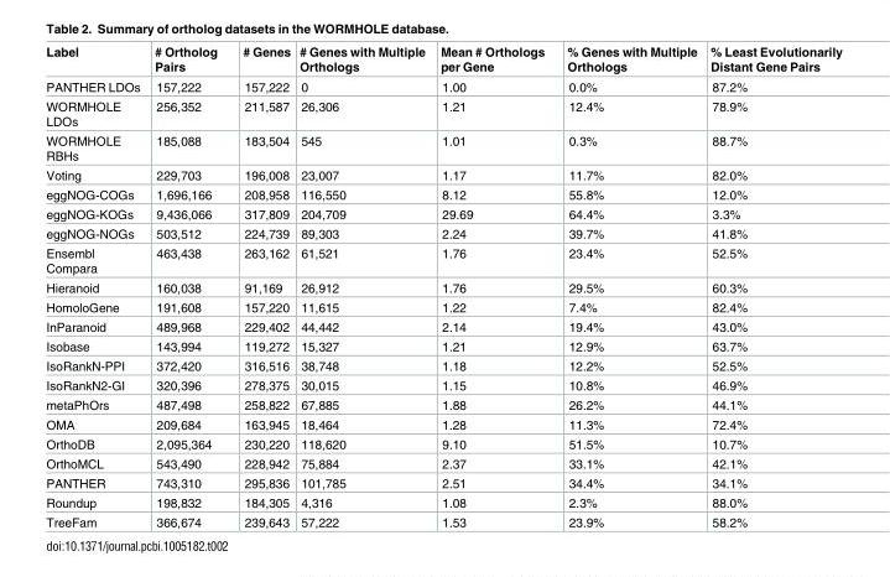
<table><thead><tr><td>Label</td><td># Ortholog Pairs</td><td># Genes</td><td># Genes with Multiple Orthologs</td><td>Mean # Orthologs per Gene</td><td>% Genes with Multiple Orthologs</td><td>% Least Evolutionarily Distant Gene Pairs</td></tr></thead><tbody><tr><td>PANTHER LDOs</td><td>157,222</td><td>157,222</td><td>0</td><td>1.00</td><td>0.0%</td><td>87.2%</td></tr><tr><td>WORMHOLE LDOs</td><td>256,352</td><td>211,587</td><td>26,306</td><td>1.21</td><td>12.4%</td><td>78.9%</td></tr><tr><td>WORMHOLE RBHs</td><td>185,088</td><td>183,504</td><td>545</td><td>1.01</td><td>0.3%</td><td>88.7%</td></tr><tr><td>Voting</td><td>229,703</td><td>196,008</td><td>23,007</td><td>1.17</td><td>11.7%</td><td>82.0%</td></tr><tr><td>eggNOG-COGs</td><td>1,696,166</td><td>208,958</td><td>116,550</td><td>8.12</td><td>55.8%</td><td>12.0%</td></tr><tr><td>eggNOG-KOGs</td><td>9,436,066</td><td>317,809</td><td>204,709</td><td>29.69</td><td>64.4%</td><td>3.3%</td></tr><tr><td>eggNOG-NOGs</td><td>503,512</td><td>224,739</td><td>89,303</td><td>2.24</td><td>39.7%</td><td>41.8%</td></tr><tr><td>Ensembl Compara</td><td>463,438</td><td>263,162</td><td>61,521</td><td>1.76</td><td>23.4%</td><td>52.5%</td></tr><tr><td>Hieranoid</td><td>160,038</td><td>91,169</td><td>26,912</td><td>1.76</td><td>29.5%</td><td>60.3%</td></tr><tr><td>HomoloGene</td><td>191,608</td><td>157,220</td><td>11,615</td><td>1.22</td><td>7.4%</td><td>82.4%</td></tr><tr><td>InParanoid</td><td>489,968</td><td>229,402</td><td>44,442</td><td>2.14</td><td>19.4%</td><td>43.0%</td></tr><tr><td>Isobase</td><td>143,994</td><td>119,272</td><td>15,327</td><td>1.21</td><td>12.9%</td><td>63.7%</td></tr><tr><td>IsoRankN-PPI</td><td>372,420</td><td>316,516</td><td>38,748</td><td>1.18</td><td>12.2%</td><td>52.5%</td></tr><tr><td>IsoRankN2-GI</td><td>320,396</td><td>278,375</td><td>30,015</td><td>1.15</td><td>10.8%</td><td>46.9%</td></tr><tr><td>metaPhOrs</td><td>487,498</td><td>258,822</td><td>67,885</td><td>1.88</td><td>26.2%</td><td>44.1%</td></tr><tr><td>OMA</td><td>209,684</td><td>163,945</td><td>18,464</td><td>1.28</td><td>11.3%</td><td>72.4%</td></tr><tr><td>OrthoDB</td><td>2,095,364</td><td>230,220</td><td>118,620</td><td>9.10</td><td>51.5%</td><td>10.7%</td></tr><tr><td>OrthoMCL</td><td>543,490</td><td>228,942</td><td>75,884</td><td>2.37</td><td>33.1%</td><td>42.1%</td></tr><tr><td>PANTHER</td><td>743,310</td><td>295,836</td><td>101,785</td><td>2.51</td><td>34.4%</td><td>34.1%</td></tr><tr><td>Roundup</td><td>198,832</td><td>184,305</td><td>4,316</td><td>1.08</td><td>2.3%</td><td>88.0%</td></tr><tr><td>TreeFam</td><td>366,674</td><td>239,643</td><td>57,222</td><td>1.53</td><td>23.9%</td><td>58.2%</td></tr></tbody></table>